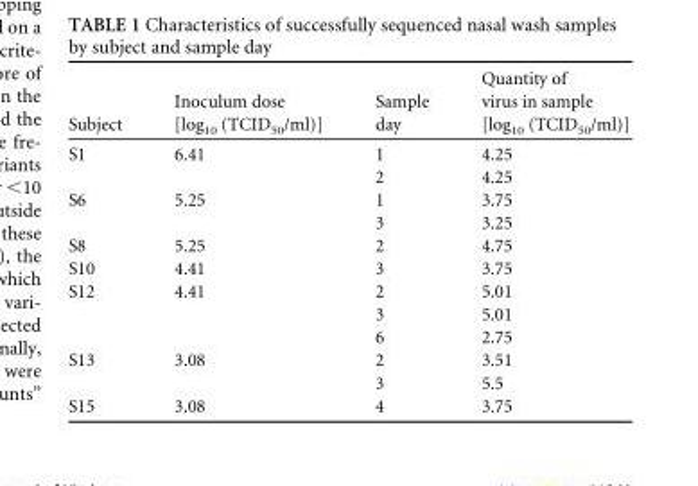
<table><thead><tr><td>Subject</td><td>Inoculum dose [log<sub>10</sub> (TCID<sub>50</sub>/ml)]</td><td>Sample day</td><td>Quantity of virus in sample [log<sub>10</sub> (TCID<sub>50</sub>/ml)]</td></tr></thead><tbody><tr><td rowspan="2">S1</td><td rowspan="2">6.41</td><td>1</td><td>4.25</td></tr><tr><td>2</td><td>4.25</td></tr><tr><td rowspan="2">S6</td><td rowspan="2">5.25</td><td>1</td><td>3.75</td></tr><tr><td>3</td><td>3.25</td></tr><tr><td>S8</td><td>5.25</td><td>2</td><td>4.75</td></tr><tr><td>S10</td><td>4.41</td><td>3</td><td>3.75</td></tr><tr><td rowspan="3">S12</td><td rowspan="3">4.41</td><td>2</td><td>5.01</td></tr><tr><td>3</td><td>5.01</td></tr><tr><td>6</td><td>2.75</td></tr><tr><td rowspan="2">S13</td><td rowspan="2">3.08</td><td>2</td><td>3.51</td></tr><tr><td>3</td><td>5.5</td></tr><tr><td>S15</td><td>3.08</td><td>4</td><td>3.75</td></tr></tbody></table>